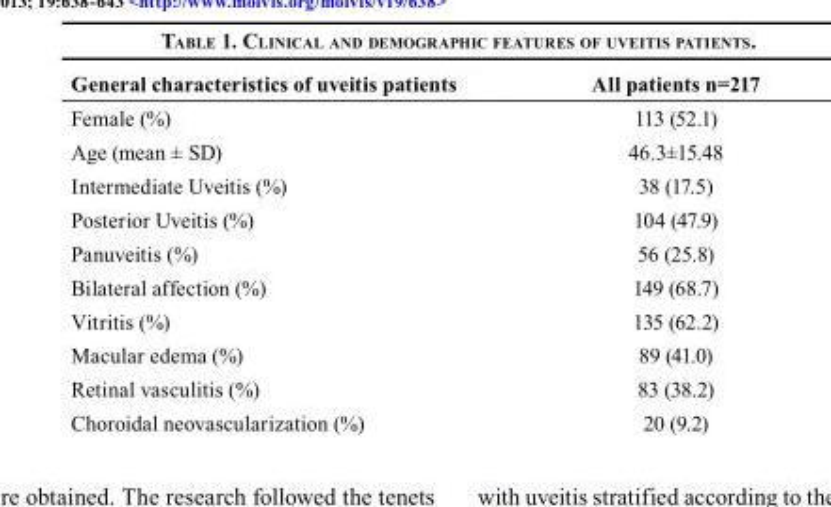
<table><thead><tr><td>General characteristics of uveitis patients</td><td>All patients n=217</td></tr></thead><tbody><tr><td>Female (%)</td><td>113 (52.1)</td></tr><tr><td>Age (mean ± SD)</td><td>46.3±15.48</td></tr><tr><td>Intermediate Uveitis (%)</td><td>38 (17.5)</td></tr><tr><td>Posterior Uveitis (%)</td><td>104 (47.9)</td></tr><tr><td>Panuveitis (%)</td><td>56 (25.8)</td></tr><tr><td>Bilateral affection (%)</td><td>149 (68.7)</td></tr><tr><td>Vitritis (%)</td><td>135 (62.2)</td></tr><tr><td>Macular edema (%)</td><td>89 (41.0)</td></tr><tr><td>Retinal vasculitis (%)</td><td>83 (38.2)</td></tr><tr><td>Choroidal neovascularization (%)</td><td>20 (9.2)</td></tr></tbody></table>